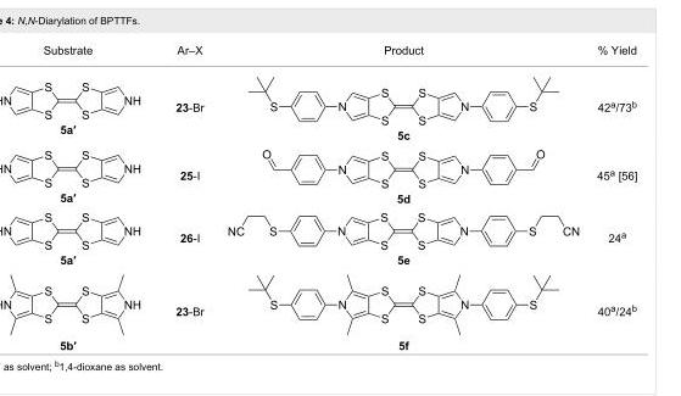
<table><tbody><tr><td>Substrate</td><td>Ar–X</td><td>Product</td><td>% Yield</td></tr><tr><td>5a′</td><td>23-Br</td><td>5c</td><td>42<sup>a</sup>/73<sup>b</sup></td></tr><tr><td>5a′</td><td>25-I</td><td>5d</td><td>45<sup>a</sup> [56]</td></tr><tr><td>5a′</td><td>26-I</td><td>5e</td><td>24<sup>a</sup></td></tr><tr><td>5b′</td><td>23-Br</td><td>5f</td><td>40<sup>a</sup>/24<sup>b</sup></td></tr></tbody></table>